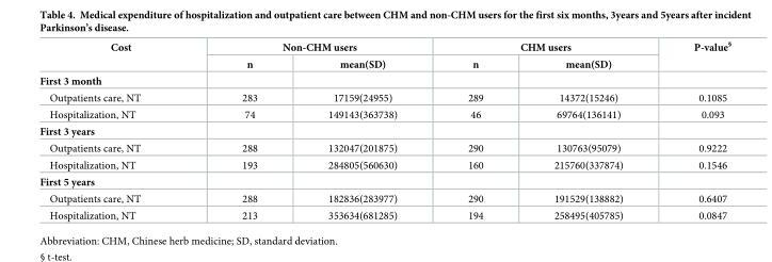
<table><thead><tr><td rowspan="2">Cost</td><td colspan="2">Non-CHM users</td><td colspan="2">CHM users</td><td rowspan="2">P-value<sup>§</sup></td></tr><tr><td>n</td><td>mean(SD)</td><td>n</td><td>mean(SD)</td></tr></thead><tbody><tr><td colspan="6">First 3 month</td></tr><tr><td>Outpatients care, NT</td><td>283</td><td>17159(24955)</td><td>289</td><td>14372(15246)</td><td>0.1085</td></tr><tr><td>Hospitalization, NT</td><td>74</td><td>149143(363738)</td><td>46</td><td>69764(136141)</td><td>0.093</td></tr><tr><td colspan="6">First 3 years</td></tr><tr><td>Outpatients care, NT</td><td>288</td><td>132047(201875)</td><td>290</td><td>130763(95079)</td><td>0.9222</td></tr><tr><td>Hospitalization, NT</td><td>193</td><td>284805(560630)</td><td>160</td><td>215760(337874)</td><td>0.1546</td></tr><tr><td colspan="6">First 5 years</td></tr><tr><td>Outpatients care, NT</td><td>288</td><td>182836(283977)</td><td>290</td><td>191529(138882)</td><td>0.6407</td></tr><tr><td>Hospitalization, NT</td><td>213</td><td>353634(681285)</td><td>194</td><td>258495(405785)</td><td>0.0847</td></tr></tbody></table>